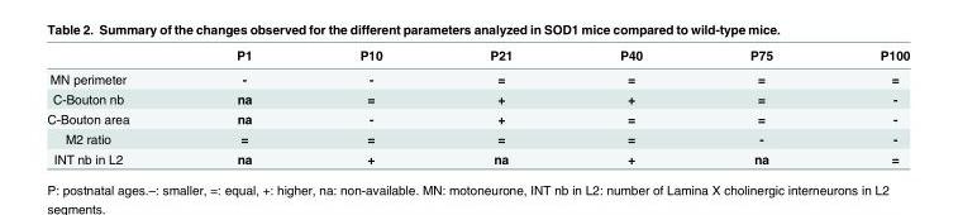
<table><thead><tr><td></td><td>P1</td><td>P10</td><td>P21</td><td>P40</td><td>P75</td><td>P100</td></tr></thead><tbody><tr><td>MN perimeter</td><td>-</td><td>-</td><td>=</td><td>=</td><td>=</td><td>=</td></tr><tr><td>C-Bouton nb</td><td>na</td><td>=</td><td>+</td><td>+</td><td>=</td><td>-</td></tr><tr><td>C-Bouton area</td><td>na</td><td>-</td><td>+</td><td>=</td><td>=</td><td>-</td></tr><tr><td>M2 ratio</td><td>=</td><td>=</td><td>=</td><td>=</td><td>-</td><td>-</td></tr><tr><td>INT nb in L2</td><td>na</td><td>+</td><td>na</td><td>+</td><td>na</td><td>=</td></tr></tbody></table>